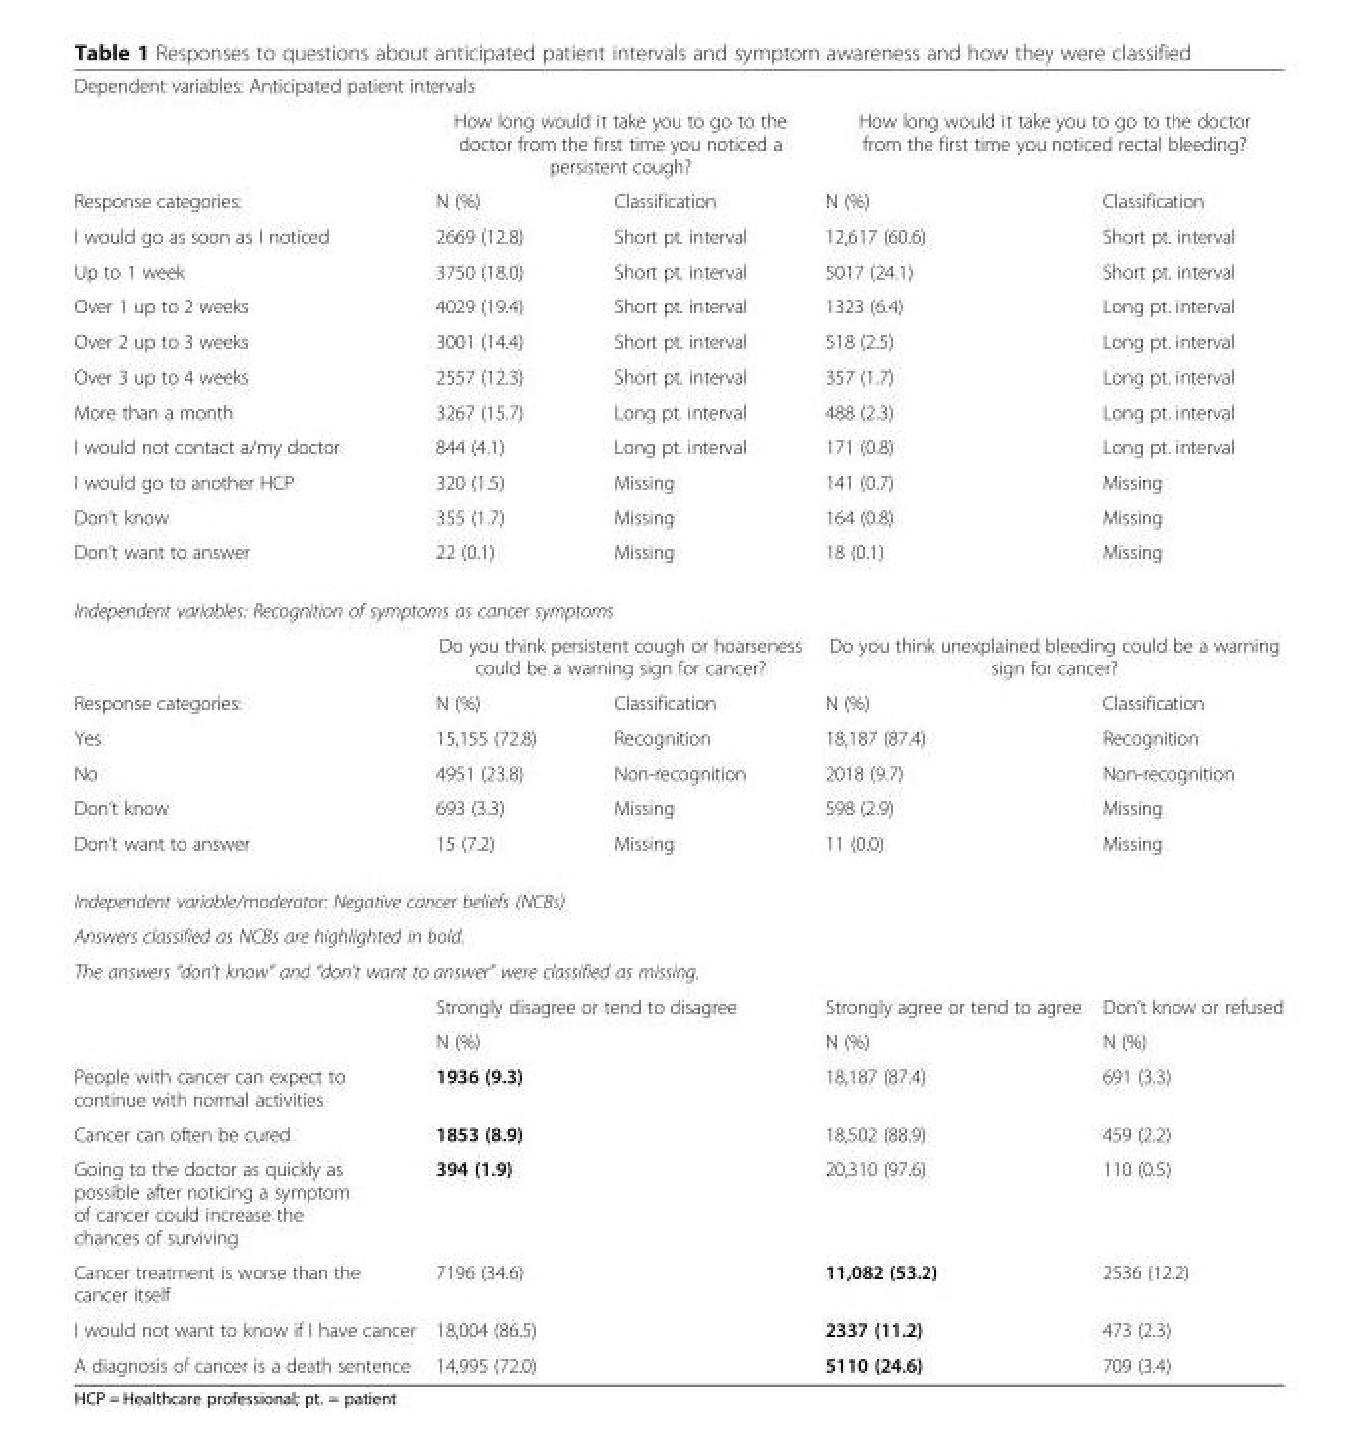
<table><tbody><tr><td colspan="5">Dependent variables: Anticipated patient intervals</td></tr><tr><td></td><td colspan="2">How long would it take you to go to the doctor from the first time you noticed a persistent cough?</td><td colspan="2">How long would it take you to go to the doctor from the first time you noticed rectal bleeding?</td></tr><tr><td>Response categories:</td><td>N (%)</td><td>Classification</td><td>N (%)</td><td>Classification</td></tr><tr><td>I would go as soon as I noticed</td><td>2669 (12.8)</td><td>Short pt. interval</td><td>12,617 (60.6)</td><td>Short pt. interval</td></tr><tr><td>Up to 1 week</td><td>3750 (18.0)</td><td>Short pt. interval</td><td>5017 (24.1)</td><td>Short pt. interval</td></tr><tr><td>Over 1 up to 2 weeks</td><td>4029 (19.4)</td><td>Short pt. interval</td><td>1323 (6.4)</td><td>Long pt. interval</td></tr><tr><td>Over 2 up to 3 weeks</td><td>3001 (14.4)</td><td>Short pt. interval</td><td>518 (2.5)</td><td>Long pt. interval</td></tr><tr><td>Over 3 up to 4 weeks</td><td>2557 (12.3)</td><td>Short pt. interval</td><td>357 (1.7)</td><td>Long pt. interval</td></tr><tr><td>More than a month</td><td>3267 (15.7)</td><td>Long pt. interval</td><td>488 (2.3)</td><td>Long pt. interval</td></tr><tr><td>I would not contact a/my doctor</td><td>844 (4.1)</td><td>Long pt. interval</td><td>171 (0.8)</td><td>Long pt. interval</td></tr><tr><td>I would go to another HCP</td><td>320 (1.5)</td><td>Missing</td><td>141 (0.7)</td><td>Missing</td></tr><tr><td>Don’t know</td><td>355 (1.7)</td><td>Missing</td><td>164 (0.8)</td><td>Missing</td></tr><tr><td>Don’t want to answer</td><td>22 (0.1)</td><td>Missing</td><td>18 (0.1)</td><td>Missing</td></tr><tr><td colspan="5">Independent variables: Recognition of symptoms as cancer symptoms</td></tr><tr><td></td><td colspan="2">Do you think persistent cough or hoarseness could be a warning sign for cancer?</td><td colspan="2">Do you think unexplained bleeding could be a warning sign for cancer?</td></tr><tr><td>Response categories:</td><td>N (%)</td><td>Classification</td><td>N (%)</td><td>Classification</td></tr><tr><td>Yes</td><td>15,155 (72.8)</td><td>Recognition</td><td>18,187 (87.4)</td><td>Recognition</td></tr><tr><td>No</td><td>4951 (23.8)</td><td>Non-recognition</td><td>2018 (9.7)</td><td>Non-recognition</td></tr><tr><td>Don’t know</td><td>693 (3.3)</td><td>Missing</td><td>598 (2.9)</td><td>Missing</td></tr><tr><td>Don’t want to answer</td><td>15 (7.2)</td><td>Missing</td><td>11 (0.0)</td><td>Missing</td></tr><tr><td colspan="5">Independent variable/moderator: Negative cancer beliefs (NCBs)</td></tr><tr><td colspan="5">Answers classified as NCBs are highlighted in bold.</td></tr><tr><td colspan="5">The answers “don’t know” and “don’t want to answer” were classified as missing.</td></tr><tr><td></td><td colspan="2">Strongly disagree or tend to disagree</td><td>Strongly agree or tend to agree</td><td>Don’t know or refused</td></tr><tr><td></td><td colspan="2">N (%)</td><td>N (%)</td><td>N (%)</td></tr><tr><td>People with cancer can expect to continue with normal activities</td><td colspan="2">1936 (9.3)</td><td>18,187 (87.4)</td><td>691 (3.3)</td></tr><tr><td>Cancer can often be cured</td><td colspan="2">1853 (8.9)</td><td>18,502 (88.9)</td><td>459 (2.2)</td></tr><tr><td>Going to the doctor as quickly as possible after noticing a symptom of cancer could increase the chances of surviving</td><td colspan="2">394 (1.9)</td><td>20,310 (97.6)</td><td>110 (0.5)</td></tr><tr><td>Cancer treatment is worse than the cancer itself</td><td colspan="2">7196 (34.6)</td><td>11,082 (53.2)</td><td>2536 (12.2)</td></tr><tr><td>I would not want to know if I have cancer</td><td colspan="2">18,004 (86.5)</td><td>2337 (11.2)</td><td>473 (2.3)</td></tr><tr><td>A diagnosis of cancer is a death sentence</td><td colspan="2">14,995 (72.0)</td><td>5110 (24.6)</td><td>709 (3.4)</td></tr></tbody></table>